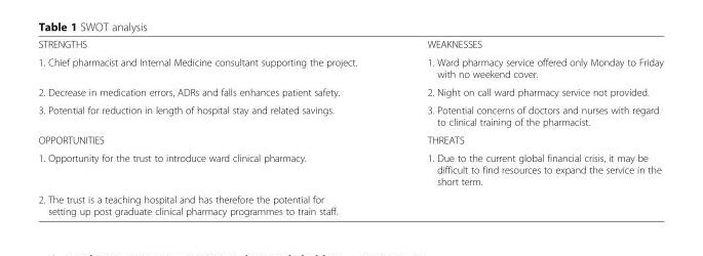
<table><tbody><tr><td>STRENGTHS</td><td>WEAKNESSES</td></tr><tr><td>1. Chief pharmacist and Internal Medicine consultant supporting the project.</td><td>1. Ward pharmacy service offered only Monday to Friday with no weekend cover.</td></tr><tr><td>2. Decrease in medication errors, ADRs and falls enhances patient safety.</td><td>2. Night on call ward pharmacy service not provided.</td></tr><tr><td>3. Potential for reduction in length of hospital stay and related savings.</td><td>3. Potential concerns of doctors and nurses with regard to clinical training of the pharmacist.</td></tr><tr><td>OPPORTUNITIES</td><td>THREATS</td></tr><tr><td>1. Opportunity for the trust to introduce ward clinical pharmacy.</td><td>1. Due to the current global financial crisis, it may be difficult to find resources to expand the service in the short term.</td></tr><tr><td>2. The trust is a teaching hospital and has therefore the potential for setting up post graduate clinical pharmacy programmes to train staff.</td><td></td></tr></tbody></table>